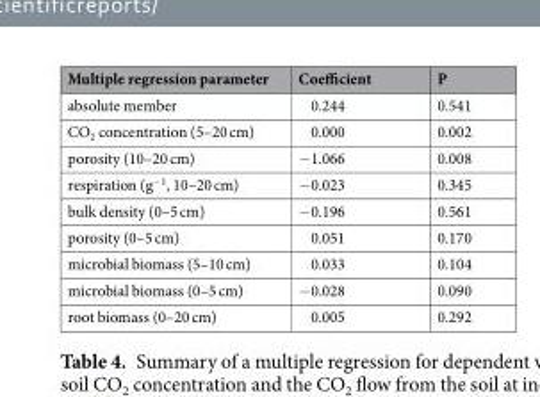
<table><thead><tr><td>Multiple regression parameter</td><td>Coefficient</td><td>P</td></tr></thead><tbody><tr><td>absolute member</td><td>0.244</td><td>0.541</td></tr><tr><td>CO<sub>2</sub> concentration (5–20 cm)</td><td>0.000</td><td>0.002</td></tr><tr><td>porosity (10–20 cm)</td><td>−1.066</td><td>0.008</td></tr><tr><td>respiration (g<sup>−1</sup>, 10–20 cm)</td><td>−0.023</td><td>0.345</td></tr><tr><td>bulk density (0–5 cm)</td><td>−0.196</td><td>0.561</td></tr><tr><td>porosity (0–5 cm)</td><td>0.051</td><td>0.170</td></tr><tr><td>microbial biomass (5–10 cm)</td><td>0.033</td><td>0.104</td></tr><tr><td>microbial biomass (0–5 cm)</td><td>−0.028</td><td>0.090</td></tr><tr><td>root biomass (0–20 cm)</td><td>0.005</td><td>0.292</td></tr></tbody></table>